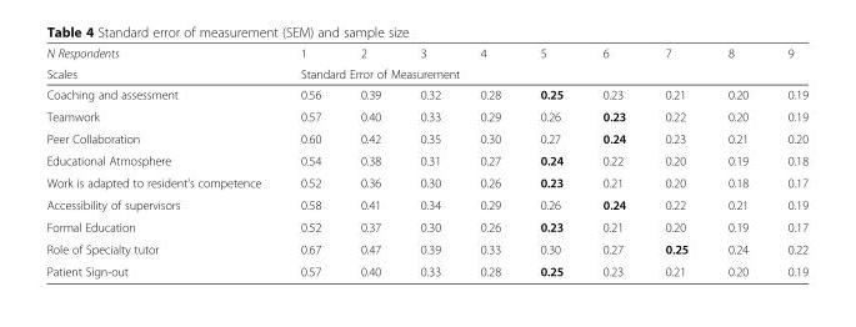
<table><thead><tr><td rowspan="2">N Respondents Scales</td><td>1</td><td>2</td><td>3</td><td>4</td><td>5</td><td>6</td><td>7</td><td>8</td><td>9</td></tr><tr><td colspan="9">Standard Error of Measurement</td></tr></thead><tbody><tr><td>Coaching and assessment</td><td>0.56</td><td>0.39</td><td>0.32</td><td>0.28</td><td>0.25</td><td>0.23</td><td>0.21</td><td>0.20</td><td>0.19</td></tr><tr><td>Teamwork</td><td>0.57</td><td>0.40</td><td>0.33</td><td>0.29</td><td>0.26</td><td>0.23</td><td>0.22</td><td>0.20</td><td>0.19</td></tr><tr><td>Peer Collaboration</td><td>0.60</td><td>0.42</td><td>0.35</td><td>0.30</td><td>0.27</td><td>0.24</td><td>0.23</td><td>0.21</td><td>0.20</td></tr><tr><td>Educational Atmosphere</td><td>0.54</td><td>0.38</td><td>0.31</td><td>0.27</td><td>0.24</td><td>0.22</td><td>0.20</td><td>0.19</td><td>0.18</td></tr><tr><td>Work is adapted to resident’s competence</td><td>0.52</td><td>0.36</td><td>0.30</td><td>0.26</td><td>0.23</td><td>0.21</td><td>0.20</td><td>0.18</td><td>0.17</td></tr><tr><td>Accessibility of supervisors</td><td>0.58</td><td>0.41</td><td>0.34</td><td>0.29</td><td>0.26</td><td>0.24</td><td>0.22</td><td>0.21</td><td>0.19</td></tr><tr><td>Formal Education</td><td>0.52</td><td>0.37</td><td>0.30</td><td>0.26</td><td>0.23</td><td>0.21</td><td>0.20</td><td>0.19</td><td>0.17</td></tr><tr><td>Role of Specialty tutor</td><td>0.67</td><td>0.47</td><td>0.39</td><td>0.33</td><td>0.30</td><td>0.27</td><td>0.25</td><td>0.24</td><td>0.22</td></tr><tr><td>Patient Sign-out</td><td>0.57</td><td>0.40</td><td>0.33</td><td>0.28</td><td>0.25</td><td>0.23</td><td>0.21</td><td>0.20</td><td>0.19</td></tr></tbody></table>